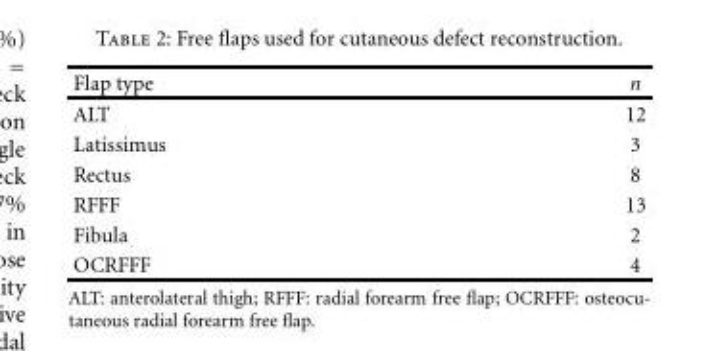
<table><thead><tr><td>Flap type</td><td>n</td></tr></thead><tbody><tr><td>ALT</td><td>12</td></tr><tr><td>Latissimus</td><td>3</td></tr><tr><td>Rectus</td><td>8</td></tr><tr><td>RFFF</td><td>13</td></tr><tr><td>Fibula</td><td>2</td></tr><tr><td>OCRFFF</td><td>4</td></tr></tbody></table>